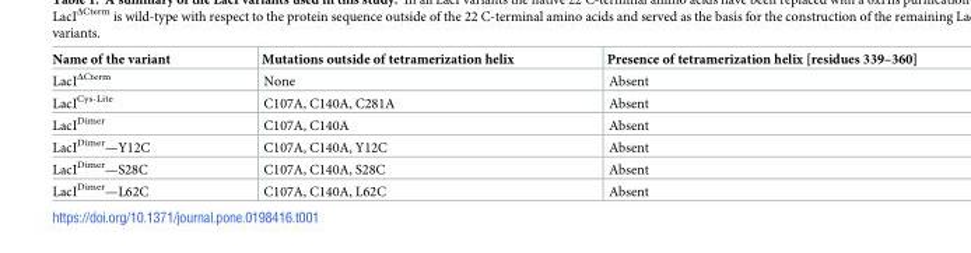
<table><thead><tr><td>Name of the variant</td><td>Mutations outside of tetramerization helix</td><td>Presence of tetramerization helix [residues 339–360]</td></tr></thead><tbody><tr><td>LacI<sup>ΔCterm</sup></td><td>None</td><td>Absent</td></tr><tr><td>LacI<sup>Cys-Lite</sup></td><td>C107A, C140A, C281A</td><td>Absent</td></tr><tr><td>LacI<sup>Dimer</sup></td><td>C107A, C140A</td><td>Absent</td></tr><tr><td>LacI<sup>Dimer</sup>—Y12C</td><td>C107A, C140A, Y12C</td><td>Absent</td></tr><tr><td>LacI<sup>Dimer</sup>—S28C</td><td>C107A, C140A, S28C</td><td>Absent</td></tr><tr><td>LacI<sup>Dimer</sup>—L62C</td><td>C107A, C140A, L62C</td><td>Absent</td></tr></tbody></table>